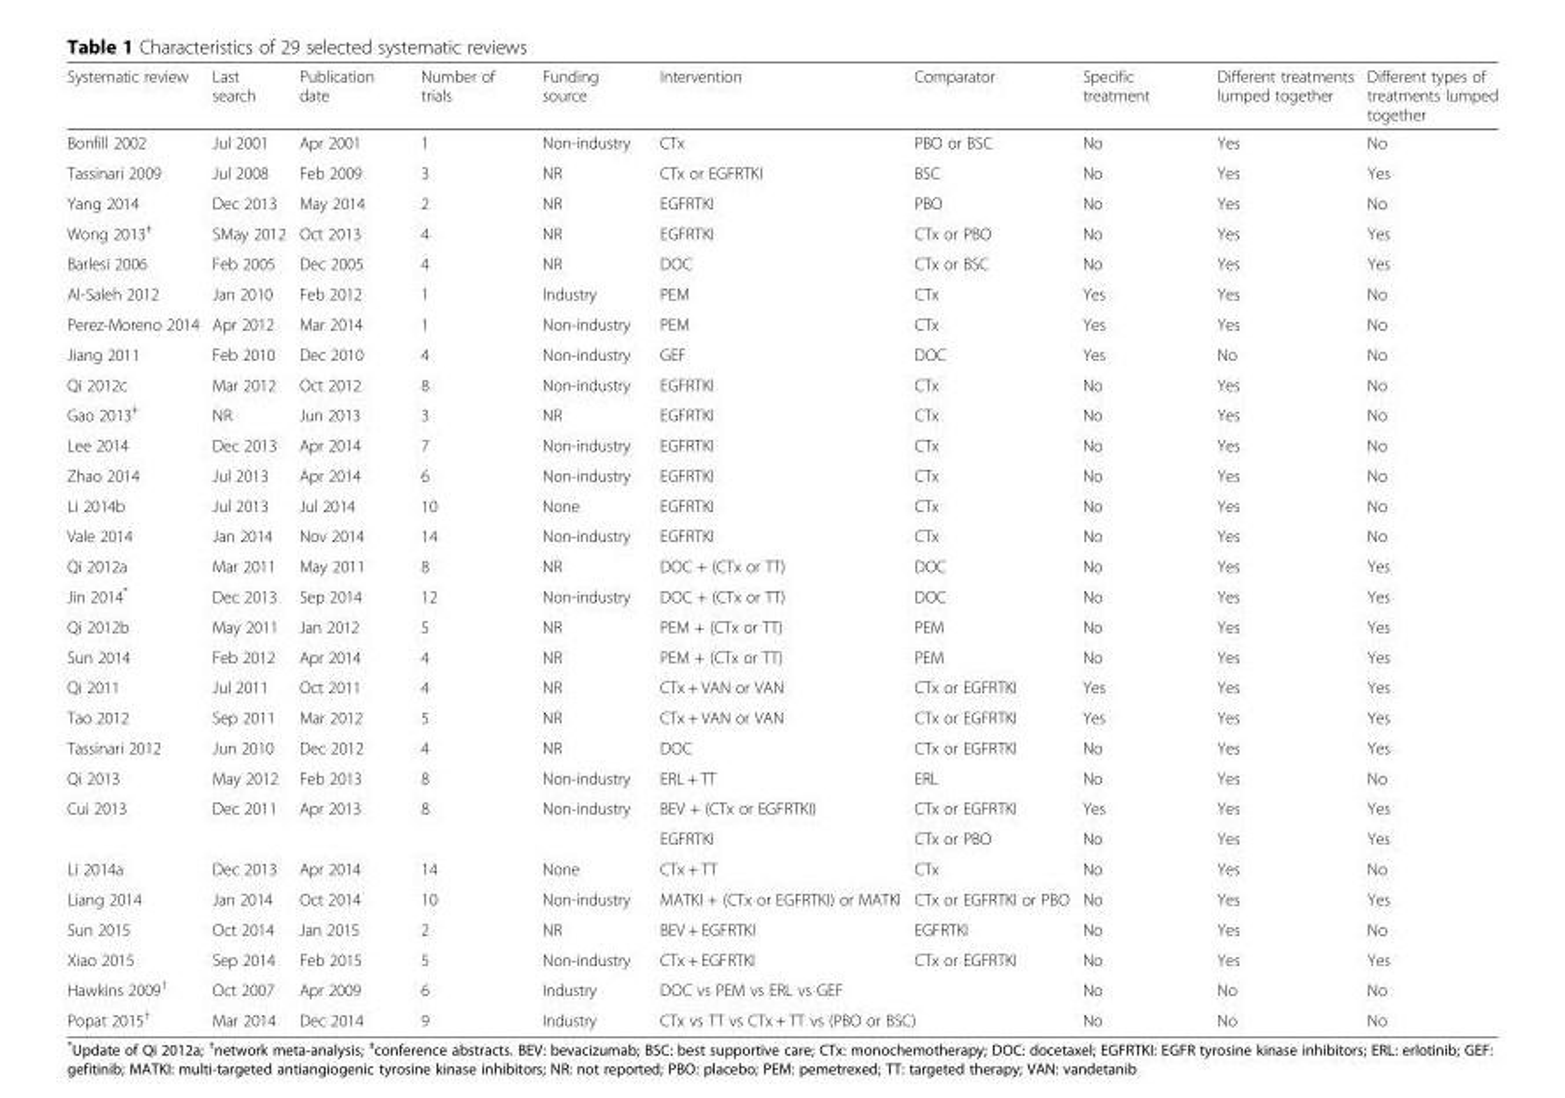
<table><thead><tr><td>Systematic review</td><td>Last search</td><td>Publication date</td><td>Number of trials</td><td>Funding source</td><td>Intervention</td><td>Comparator</td><td>Specific treatment</td><td>Different treatments lumped together</td><td>Different types of treatments lumped together</td></tr></thead><tbody><tr><td>Bonfill 2002</td><td>Jul 2001</td><td>Apr 2001</td><td>1</td><td>Non-industry</td><td>CTx</td><td>PBO or BSC</td><td>No</td><td>Yes</td><td>No</td></tr><tr><td>Tassinari 2009</td><td>Jul 2008</td><td>Feb 2009</td><td>3</td><td>NR</td><td>CTx or EGFRTKI</td><td>BSC</td><td>No</td><td>Yes</td><td>Yes</td></tr><tr><td>Yang 2014</td><td>Dec 2013</td><td>May 2014</td><td>2</td><td>NR</td><td>EGFRTKI</td><td>PBO</td><td>No</td><td>Yes</td><td>No</td></tr><tr><td>Wong 2013<sup>‡</sup></td><td>SMay 2012</td><td>Oct 2013</td><td>4</td><td>NR</td><td>EGFRTKI</td><td>CTx or PBO</td><td>No</td><td>Yes</td><td>Yes</td></tr><tr><td>Barlesi 2006</td><td>Feb 2005</td><td>Dec 2005</td><td>4</td><td>NR</td><td>DOC</td><td>CTx or BSC</td><td>No</td><td>Yes</td><td>Yes</td></tr><tr><td>Al-Saleh 2012</td><td>Jan 2010</td><td>Feb 2012</td><td>1</td><td>Industry</td><td>PEM</td><td>CTx</td><td>Yes</td><td>Yes</td><td>No</td></tr><tr><td>Perez-Moreno 2014</td><td>Apr 2012</td><td>Mar 2014</td><td>1</td><td>Non-industry</td><td>PEM</td><td>CTx</td><td>Yes</td><td>Yes</td><td>No</td></tr><tr><td>Jiang 2011</td><td>Feb 2010</td><td>Dec 2010</td><td>4</td><td>Non-industry</td><td>GEF</td><td>DOC</td><td>Yes</td><td>No</td><td>No</td></tr><tr><td>Qi 2012c</td><td>Mar 2012</td><td>Oct 2012</td><td>8</td><td>Non-industry</td><td>EGFRTKI</td><td>CTx</td><td>No</td><td>Yes</td><td>No</td></tr><tr><td>Gao 2013<sup>‡</sup></td><td>NR</td><td>Jun 2013</td><td>3</td><td>NR</td><td>EGFRTKI</td><td>CTx</td><td>No</td><td>Yes</td><td>No</td></tr><tr><td>Lee 2014</td><td>Dec 2013</td><td>Apr 2014</td><td>7</td><td>Non-industry</td><td>EGFRTKI</td><td>CTx</td><td>No</td><td>Yes</td><td>No</td></tr><tr><td>Zhao 2014</td><td>Jul 2013</td><td>Apr 2014</td><td>6</td><td>Non-industry</td><td>EGFRTKI</td><td>CTx</td><td>No</td><td>Yes</td><td>No</td></tr><tr><td>Li 2014b</td><td>Jul 2013</td><td>Jul 2014</td><td>10</td><td>None</td><td>EGFRTKI</td><td>CTx</td><td>No</td><td>Yes</td><td>No</td></tr><tr><td>Vale 2014</td><td>Jan 2014</td><td>Nov 2014</td><td>14</td><td>Non-industry</td><td>EGFRTKI</td><td>CTx</td><td>No</td><td>Yes</td><td>No</td></tr><tr><td>Qi 2012a</td><td>Mar 2011</td><td>May 2011</td><td>8</td><td>NR</td><td>DOC + (CTx or TT)</td><td>DOC</td><td>No</td><td>Yes</td><td>Yes</td></tr><tr><td>Jin 2014*</td><td>Dec 2013</td><td>Sep 2014</td><td>12</td><td>Non-industry</td><td>DOC + (CTx or TT)</td><td>DOC</td><td>No</td><td>Yes</td><td>Yes</td></tr><tr><td>Qi 2012b</td><td>May 2011</td><td>Jan 2012</td><td>5</td><td>NR</td><td>PEM + (CTx or TT)</td><td>PEM</td><td>No</td><td>Yes</td><td>Yes</td></tr><tr><td>Sun 2014</td><td>Feb 2012</td><td>Apr 2014</td><td>4</td><td>NR</td><td>PEM + (CTx or TT)</td><td>PEM</td><td>No</td><td>Yes</td><td>Yes</td></tr><tr><td>Qi 2011</td><td>Jul 2011</td><td>Oct 2011</td><td>4</td><td>NR</td><td>CTx + VAN or VAN</td><td>CTx or EGFRTKI</td><td>Yes</td><td>Yes</td><td>Yes</td></tr><tr><td>Tao 2012</td><td>Sep 2011</td><td>Mar 2012</td><td>5</td><td>NR</td><td>CTx + VAN or VAN</td><td>CTx or EGFRTKI</td><td>Yes</td><td>Yes</td><td>Yes</td></tr><tr><td>Tassinari 2012</td><td>Jun 2010</td><td>Dec 2012</td><td>4</td><td>NR</td><td>DOC</td><td>CTx or EGFRTKI</td><td>No</td><td>Yes</td><td>Yes</td></tr><tr><td>Qi 2013</td><td>May 2012</td><td>Feb 2013</td><td>8</td><td>Non-industry</td><td>ERL + TT</td><td>ERL</td><td>No</td><td>Yes</td><td>No</td></tr><tr><td rowspan="2">Cui 2013</td><td>Dec 2011</td><td>Apr 2013</td><td>8</td><td>Non-industry</td><td>BEV + (CTx or EGFRTKI)</td><td>CTx or EGFRTKI</td><td>Yes</td><td>Yes</td><td>Yes</td></tr><tr><td></td><td></td><td></td><td></td><td>EGFRTKI</td><td>CTx or PBO</td><td>No</td><td>Yes</td><td>Yes</td></tr><tr><td>Li 2014a</td><td>Dec 2013</td><td>Apr 2014</td><td>14</td><td>None</td><td>CTx + TT</td><td>CTx</td><td>No</td><td>Yes</td><td>No</td></tr><tr><td>Liang 2014</td><td>Jan 2014</td><td>Oct 2014</td><td>10</td><td>Non-industry</td><td>MATKI + (CTx or EGFRTKI) or MATKI</td><td>CTx or EGFRTKI or PBO</td><td>No</td><td>Yes</td><td>Yes</td></tr><tr><td>Sun 2015</td><td>Oct 2014</td><td>Jan 2015</td><td>2</td><td>NR</td><td>BEV + EGFRTKI</td><td>EGFRTKI</td><td>No</td><td>Yes</td><td>No</td></tr><tr><td>Xiao 2015</td><td>Sep 2014</td><td>Feb 2015</td><td>5</td><td>Non-industry</td><td>CTx + EGFRTKI</td><td>CTx or EGFRTKI</td><td>No</td><td>Yes</td><td>Yes</td></tr><tr><td>Hawkins 2009<sup>†</sup></td><td>Oct 2007</td><td>Apr 2009</td><td>6</td><td>Industry</td><td colspan="2">DOC vs PEM vs ERL vs GEF</td><td>No</td><td>No</td><td>No</td></tr><tr><td>Popat 2015<sup>†</sup></td><td>Mar 2014</td><td>Dec 2014</td><td>9</td><td>Industry</td><td colspan="2">CTx vs TT vs CTx + TT vs (PBO or BSC)</td><td>No</td><td>No</td><td>No</td></tr></tbody></table>